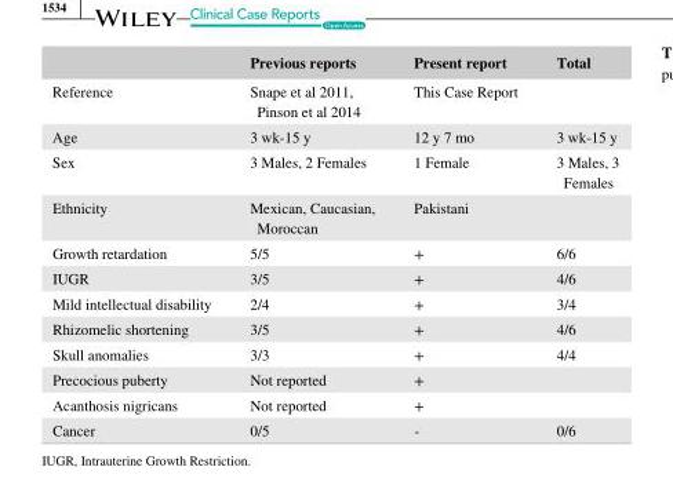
<table><thead><tr><td></td><td>Previous reports</td><td>Present report</td><td>Total</td></tr></thead><tbody><tr><td>Reference</td><td>Snape et al 2011, Pinson et al 2014</td><td>This Case Report</td><td></td></tr><tr><td>Age</td><td>3 wk- 15 y</td><td>12 y 7 mo</td><td>3 wk- 15 y</td></tr><tr><td>Sex</td><td>3 Males, 2 Females</td><td>1 Female</td><td>3 Males, 3 Females</td></tr><tr><td>Ethnicity</td><td>Mexican, Caucasian, Moroccan</td><td>Pakistani</td><td></td></tr><tr><td>Growth retardation</td><td>5/5</td><td>+</td><td>6/6</td></tr><tr><td>IUGR</td><td>3/5</td><td>+</td><td>4/6</td></tr><tr><td>Mild intellectual disability</td><td>2/4</td><td>+</td><td>3/4</td></tr><tr><td>Rhizomelic shortening</td><td>3/5</td><td>+</td><td>4/6</td></tr><tr><td>Skull anomalies</td><td>3/3</td><td>+</td><td>4/4</td></tr><tr><td>Precocious puberty</td><td>Not reported</td><td>+</td><td></td></tr><tr><td>Acanthosis nigricans</td><td>Not reported</td><td>+</td><td></td></tr><tr><td>Cancer</td><td>0/5</td><td>-</td><td>0/6</td></tr></tbody></table>